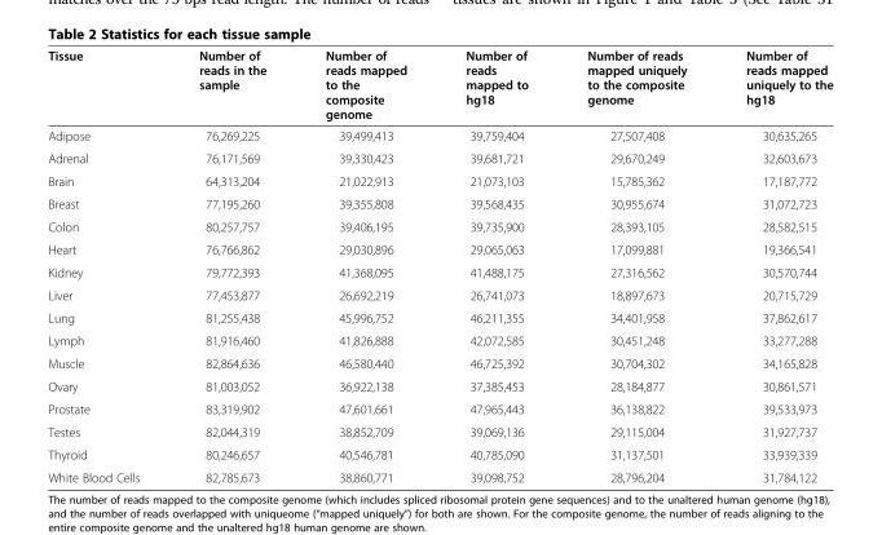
<table><thead><tr><td>Tissue</td><td>Number of reads in the sample</td><td>Number of reads mapped to the composite genome</td><td>Number of reads mapped to hg18</td><td>Number of reads mapped uniquely to the composite genome</td><td>Number of reads mapped uniquely to the hg18</td></tr></thead><tbody><tr><td>Adipose</td><td>76,269,225</td><td>39,499,413</td><td>39,759,404</td><td>27,507,408</td><td>30,635,265</td></tr><tr><td>Adrenal</td><td>76,171,569</td><td>39,330,423</td><td>39,681,721</td><td>29,670,249</td><td>32,603,673</td></tr><tr><td>Brain</td><td>64,313,204</td><td>21,022,913</td><td>21,073,103</td><td>15,785,362</td><td>17,187,772</td></tr><tr><td>Breast</td><td>77,195,260</td><td>39,355,808</td><td>39,568,435</td><td>30,955,674</td><td>31,072,723</td></tr><tr><td>Colon</td><td>80,257,757</td><td>39,406,195</td><td>39,735,900</td><td>28,393,105</td><td>28,582,515</td></tr><tr><td>Heart</td><td>76,766,862</td><td>29,030,896</td><td>29,065,063</td><td>17,099,881</td><td>19,366,541</td></tr><tr><td>Kidney</td><td>79,772,393</td><td>41,368,095</td><td>41,488,175</td><td>27,316,562</td><td>30,570,744</td></tr><tr><td>Liver</td><td>77,453,877</td><td>26,692,219</td><td>26,741,073</td><td>18,897,673</td><td>20,715,729</td></tr><tr><td>Lung</td><td>81,255,438</td><td>45,996,752</td><td>46,211,355</td><td>34,401,958</td><td>37,862,617</td></tr><tr><td>Lymph</td><td>81,916,460</td><td>41,826,888</td><td>42,072,585</td><td>30,451,248</td><td>33,277,288</td></tr><tr><td>Muscle</td><td>82,864,636</td><td>46,580,440</td><td>46,725,392</td><td>30,704,302</td><td>34,165,828</td></tr><tr><td>Ovary</td><td>81,003,052</td><td>36,922,138</td><td>37,385,453</td><td>28,184,877</td><td>30,861,571</td></tr><tr><td>Prostate</td><td>83,319,902</td><td>47,601,661</td><td>47,965,443</td><td>36,138,822</td><td>39,533,973</td></tr><tr><td>Testes</td><td>82,044,319</td><td>38,852,709</td><td>39,069,136</td><td>29,115,004</td><td>31,927,737</td></tr><tr><td>Thyroid</td><td>80,246,657</td><td>40,546,781</td><td>40,785,090</td><td>31,137,501</td><td>33,939,339</td></tr><tr><td>White Blood Cells</td><td>82,785,673</td><td>38,860,771</td><td>39,098,752</td><td>28,796,204</td><td>31,784,122</td></tr></tbody></table>